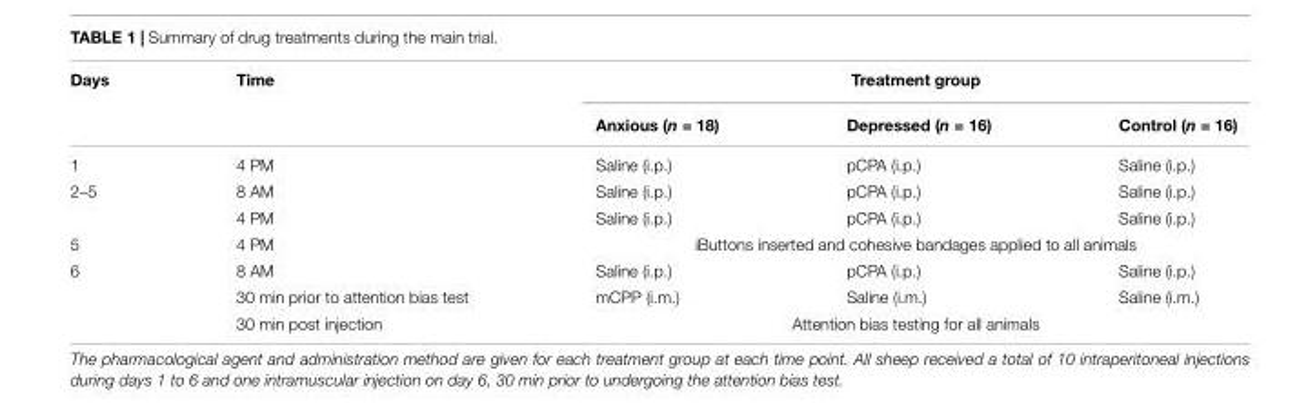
<table><thead><tr><td rowspan="2">Days</td><td rowspan="2">Time</td><td colspan="3">Treatment group</td></tr><tr><td>Anxious (n = 18)</td><td>Depressed (n = 16)</td><td>Control (n = 16)</td></tr></thead><tbody><tr><td>1</td><td>4 PM</td><td>Saline (i.p.)</td><td>pCPA (i.p.)</td><td>Saline (i.p.)</td></tr><tr><td rowspan="2">2–5</td><td>8 AM</td><td>Saline (i.p.)</td><td>pCPA (i.p.)</td><td>Saline (i.p.)</td></tr><tr><td>4 PM</td><td>Saline (i.p.)</td><td>pCPA (i.p.)</td><td>Saline (i.p.)</td></tr><tr><td>5</td><td>4 PM</td><td colspan="3">iButtons inserted and cohesive bandages applied to all animals</td></tr><tr><td rowspan="3">6</td><td>8 AM</td><td>Saline (i.p.)</td><td>pCPA (i.p.)</td><td>Saline (i.p.)</td></tr><tr><td>30 min prior to attention bias test</td><td>mCPP (i.m.)</td><td>Saline (i.m.)</td><td>Saline (i.m.)</td></tr><tr><td>30 min post injection</td><td colspan="3">Attention bias testing for all animals</td></tr></tbody></table>